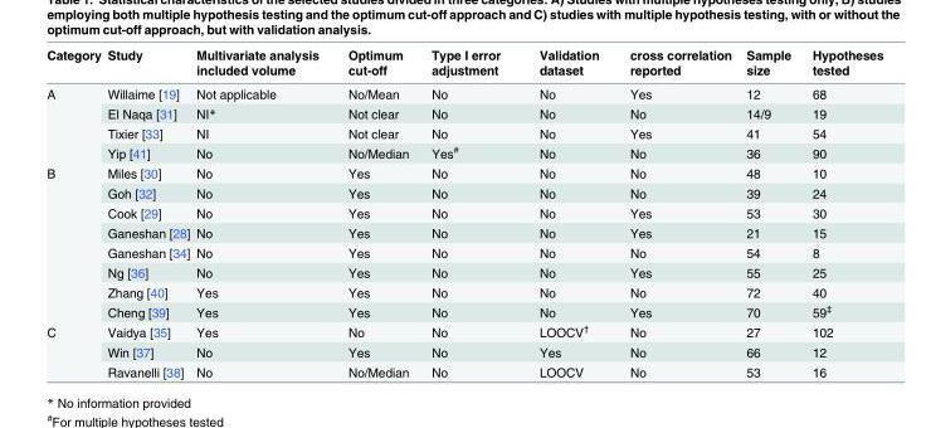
<table><thead><tr><td>Category</td><td>Study</td><td>Multivariate analysis included volume</td><td>Optimum cut-off</td><td>Type I error adjustment</td><td>Validation dataset</td><td>cross correlation reported</td><td>Sample size</td><td>Hypotheses tested</td></tr></thead><tbody><tr><td rowspan="4">A</td><td>Willaime [19]</td><td>Not applicable</td><td>No/Mean</td><td>No</td><td>No</td><td>Yes</td><td>12</td><td>68</td></tr><tr><td>El Naqa [31]</td><td>NI*</td><td>Not clear</td><td>No</td><td>No</td><td>No</td><td>14/9</td><td>19</td></tr><tr><td>Tixier [33]</td><td>NI</td><td>Not clear</td><td>No</td><td>No</td><td>Yes</td><td>41</td><td>54</td></tr><tr><td>Yip [41]</td><td>No</td><td>No/Median</td><td>Yes<sup>#</sup></td><td>No</td><td>No</td><td>36</td><td>90</td></tr><tr><td rowspan="8">B</td><td>Miles [30]</td><td>No</td><td>Yes</td><td>No</td><td>No</td><td>No</td><td>48</td><td>10</td></tr><tr><td>Goh [32]</td><td>No</td><td>Yes</td><td>No</td><td>No</td><td>No</td><td>39</td><td>24</td></tr><tr><td>Cook [29]</td><td>No</td><td>Yes</td><td>No</td><td>No</td><td>Yes</td><td>53</td><td>30</td></tr><tr><td>Ganeshan [28]</td><td>No</td><td>Yes</td><td>No</td><td>No</td><td>Yes</td><td>21</td><td>15</td></tr><tr><td>Ganeshan [34]</td><td>No</td><td>Yes</td><td>No</td><td>No</td><td>No</td><td>54</td><td>8</td></tr><tr><td>Ng [36]</td><td>No</td><td>Yes</td><td>No</td><td>No</td><td>Yes</td><td>55</td><td>25</td></tr><tr><td>Zhang [40]</td><td>Yes</td><td>Yes</td><td>No</td><td>No</td><td>No</td><td>72</td><td>40</td></tr><tr><td>Cheng [39]</td><td>Yes</td><td>Yes</td><td>No</td><td>No</td><td>Yes</td><td>70</td><td>59<sup>‡</sup></td></tr><tr><td rowspan="3">C</td><td>Vaidya [35]</td><td>Yes</td><td>No</td><td>No</td><td>LOOCV<sup>†</sup></td><td>No</td><td>27</td><td>102</td></tr><tr><td>Win [37]</td><td>No</td><td>Yes</td><td>No</td><td>Yes</td><td>No</td><td>66</td><td>12</td></tr><tr><td>Ravanelli [38]</td><td>No</td><td>No/Median</td><td>No</td><td>LOOCV</td><td>No</td><td>53</td><td>16</td></tr></tbody></table>